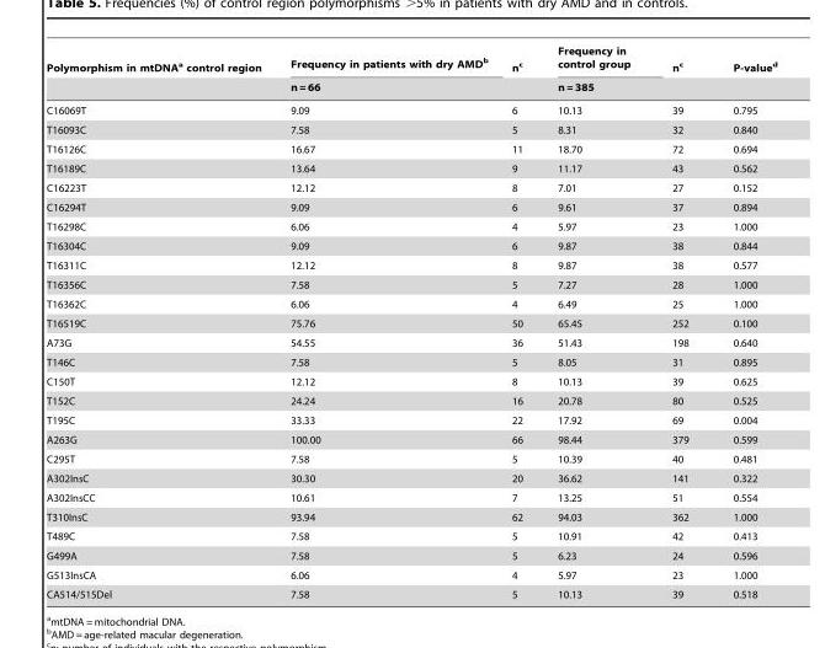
<table><thead><tr><td rowspan="2">Polymorphism in mtDNA<sup>a</sup> control region</td><td rowspan="2">Frequency in patients with dry AMD<sup>b</sup> n = 66</td><td rowspan="2">n<sup>c</sup></td><td rowspan="2">Frequency in control group n = 385</td><td rowspan="2">n<sup>c</sup></td><td rowspan="2">P-value<sup>d</sup></td></tr><tr></tr></thead><tbody><tr><td>C16069T</td><td>9.09</td><td>6</td><td>10.13</td><td>39</td><td>0.795</td></tr><tr><td>T16093C</td><td>7.58</td><td>5</td><td>8.31</td><td>32</td><td>0.840</td></tr><tr><td>T16126C</td><td>16.67</td><td>11</td><td>18.70</td><td>72</td><td>0.694</td></tr><tr><td>T16189C</td><td>13.64</td><td>9</td><td>11.17</td><td>43</td><td>0.562</td></tr><tr><td>C16223T</td><td>12.12</td><td>8</td><td>7.01</td><td>27</td><td>0.152</td></tr><tr><td>C16294T</td><td>9.09</td><td>6</td><td>9.61</td><td>37</td><td>0.894</td></tr><tr><td>T16298C</td><td>6.06</td><td>4</td><td>5.97</td><td>23</td><td>1.000</td></tr><tr><td>T16304C</td><td>9.09</td><td>6</td><td>9.87</td><td>38</td><td>0.844</td></tr><tr><td>T16311C</td><td>12.12</td><td>8</td><td>9.87</td><td>38</td><td>0.577</td></tr><tr><td>T16356C</td><td>7.58</td><td>5</td><td>7.27</td><td>28</td><td>1.000</td></tr><tr><td>T16362C</td><td>6.06</td><td>4</td><td>6.49</td><td>25</td><td>1.000</td></tr><tr><td>T16519C</td><td>75.76</td><td>50</td><td>65.45</td><td>252</td><td>0.100</td></tr><tr><td>A73G</td><td>54.55</td><td>36</td><td>51.43</td><td>198</td><td>0.640</td></tr><tr><td>T146C</td><td>7.58</td><td>5</td><td>8.05</td><td>31</td><td>0.895</td></tr><tr><td>C150T</td><td>12.12</td><td>8</td><td>10.13</td><td>39</td><td>0.625</td></tr><tr><td>T152C</td><td>24.24</td><td>16</td><td>20.78</td><td>80</td><td>0.525</td></tr><tr><td>T195C</td><td>33.33</td><td>22</td><td>17.92</td><td>69</td><td>0.004</td></tr><tr><td>A263G</td><td>100.00</td><td>66</td><td>98.44</td><td>379</td><td>0.599</td></tr><tr><td>C295T</td><td>7.58</td><td>5</td><td>10.39</td><td>40</td><td>0.481</td></tr><tr><td>A302InsC</td><td>30.30</td><td>20</td><td>36.62</td><td>141</td><td>0.322</td></tr><tr><td>A302InsCC</td><td>10.61</td><td>7</td><td>13.25</td><td>51</td><td>0.554</td></tr><tr><td>T310InsC</td><td>93.94</td><td>62</td><td>94.03</td><td>362</td><td>1.000</td></tr><tr><td>T489C</td><td>7.58</td><td>5</td><td>10.91</td><td>42</td><td>0.413</td></tr><tr><td>G499A</td><td>7.58</td><td>5</td><td>6.23</td><td>24</td><td>0.596</td></tr><tr><td>G513InsCA</td><td>6.06</td><td>4</td><td>5.97</td><td>23</td><td>1.000</td></tr><tr><td>CA514/515Del</td><td>7.58</td><td>5</td><td>10.13</td><td>39</td><td>0.518</td></tr></tbody></table>